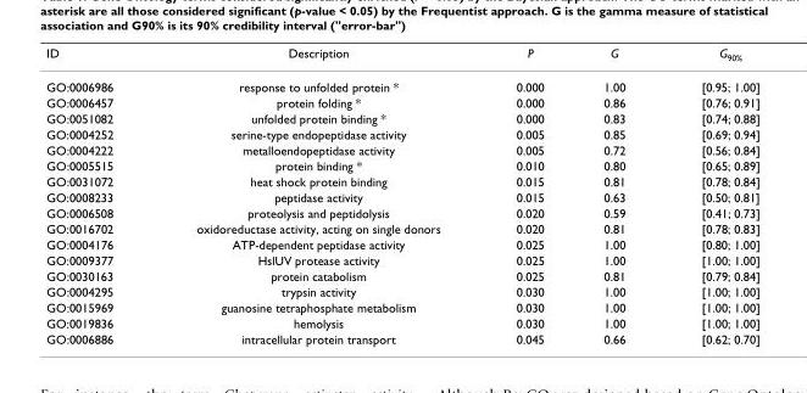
<table><thead><tr><td>ID</td><td>Description</td><td>P</td><td>G</td><td>G<sub>90%</sub></td></tr></thead><tbody><tr><td>GO:0006986</td><td>response to unfolded protein *</td><td>0.000</td><td>1.00</td><td>[0.95; 1.00]</td></tr><tr><td>GO:0006457</td><td>protein folding *</td><td>0.000</td><td>0.86</td><td>[0.76; 0.91]</td></tr><tr><td>GO:0051082</td><td>unfolded protein binding *</td><td>0.000</td><td>0.83</td><td>[0.74; 0.88]</td></tr><tr><td>GO:0004252</td><td>serine-type endopeptidase activity</td><td>0.005</td><td>0.85</td><td>[0.69; 0.94]</td></tr><tr><td>GO:0004222</td><td>metalloendopeptidase activity</td><td>0.005</td><td>0.72</td><td>[0.56; 0.84]</td></tr><tr><td>GO:0005515</td><td>protein binding *</td><td>0.010</td><td>0.80</td><td>[0.65; 0.89]</td></tr><tr><td>GO:0031072</td><td>heat shock protein binding</td><td>0.015</td><td>0.81</td><td>[0.78; 0.84]</td></tr><tr><td>GO:0008233</td><td>peptidase activity</td><td>0.015</td><td>0.63</td><td>[0.50; 0.81]</td></tr><tr><td>GO:0006508</td><td>proteolysis and peptidolysis</td><td>0.020</td><td>0.59</td><td>[0.41; 0.73]</td></tr><tr><td>GO:0016702</td><td>oxidoreductase activity, acting on single donors</td><td>0.020</td><td>0.81</td><td>[0.78; 0.83]</td></tr><tr><td>GO:0004176</td><td>ATP-dependent peptidase activity</td><td>0.025</td><td>1.00</td><td>[0.80; 1.00]</td></tr><tr><td>GO:0009377</td><td>HslUV protease activity</td><td>0.025</td><td>1.00</td><td>[1.00; 1.00]</td></tr><tr><td>GO:0030163</td><td>protein catabolism</td><td>0.025</td><td>0.81</td><td>[0.79; 0.84]</td></tr><tr><td>GO:0004295</td><td>trypsin activity</td><td>0.030</td><td>1.00</td><td>[1.00; 1.00]</td></tr><tr><td>GO:0015969</td><td>guanosine tetraphosphate metabolism</td><td>0.030</td><td>1.00</td><td>[1.00; 1.00]</td></tr><tr><td>GO:0019836</td><td>hemolysis</td><td>0.030</td><td>1.00</td><td>[1.00; 1.00]</td></tr><tr><td>GO:0006886</td><td>intracellular protein transport</td><td>0.045</td><td>0.66</td><td>[0.62; 0.70]</td></tr></tbody></table>